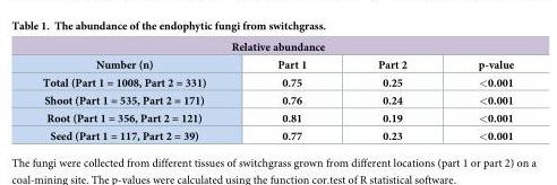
<table><thead><tr><td colspan="4">Relative abundance</td></tr><tr><td>Number (n)</td><td>Part 1</td><td>Part 2</td><td>p-value</td></tr></thead><tbody><tr><td>Total (Part 1 = 1008, Part 2 = 331)</td><td>0.75</td><td>0.25</td><td>&lt;0.001</td></tr><tr><td>Shoot (Part 1 = 535, Part 2 = 171)</td><td>0.76</td><td>0.24</td><td>&lt;0.001</td></tr><tr><td>Root (Part 1 = 356, Part 2 = 121)</td><td>0.81</td><td>0.19</td><td>&lt;0.001</td></tr><tr><td>Seed (Part 1 = 117, Part 2 = 39)</td><td>0.77</td><td>0.23</td><td>&lt;0.001</td></tr></tbody></table>